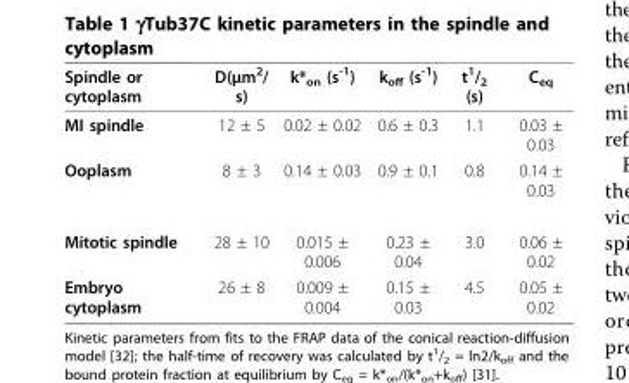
<table><thead><tr><td>Spindle or cytoplasm</td><td>D(μm<sup>2</sup>/ s)</td><td>k*<sub>on</sub> (s<sup>-1</sup>)</td><td>k<sub>off</sub> (s<sup>-1</sup>)</td><td>t<sup>1</sup>/<sub>2</sub> (s)</td><td>C<sub>eq</sub></td></tr></thead><tbody><tr><td>MI spindle</td><td>12 ± 5</td><td>0.02 ± 0.02</td><td>0.6 ± 0.3</td><td>1.1</td><td>0.03 ± 0.03</td></tr><tr><td>Ooplasm</td><td>8 ± 3</td><td>0.14 ± 0.03</td><td>0.9 ± 0.1</td><td>0.8</td><td>0.14 ± 0.03</td></tr><tr><td>Mitotic spindle</td><td>28 ± 10</td><td>0.015 ± 0.006</td><td>0.23 ± 0.04</td><td>3.0</td><td>0.06 ± 0.02</td></tr><tr><td>Embryo cytoplasm</td><td>26 ± 8</td><td>0.009 ± 0.004</td><td>0.15 ± 0.03</td><td>4.5</td><td>0.05 ± 0.02</td></tr></tbody></table>